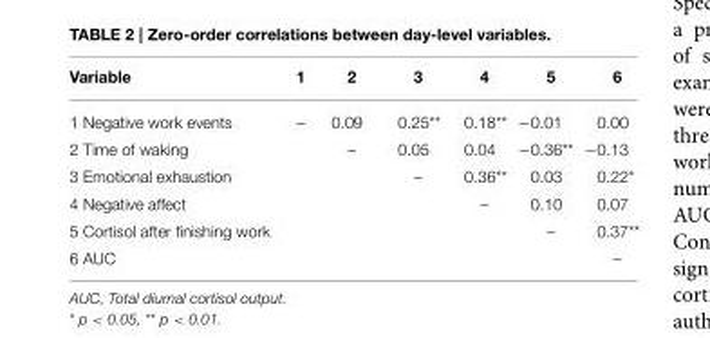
<table><thead><tr><td>Variable</td><td>1</td><td>2</td><td>3</td><td>4</td><td>5</td><td>6</td></tr></thead><tbody><tr><td>1 Negative work events</td><td>–</td><td>0.09</td><td>0.25**</td><td>0.18**</td><td>−0.01</td><td>0.00</td></tr><tr><td>2 Time of waking</td><td></td><td>–</td><td>0.05</td><td>0.04</td><td>−0.36**</td><td>−0.13</td></tr><tr><td>3 Emotional exhaustion</td><td></td><td></td><td>–</td><td>0.36**</td><td>0.03</td><td>0.22*</td></tr><tr><td>4 Negative affect</td><td></td><td></td><td></td><td>–</td><td>0.10</td><td>0.07</td></tr><tr><td>5 Cortisol after finishing work</td><td></td><td></td><td></td><td></td><td>–</td><td>0.37**</td></tr><tr><td>6 AUC</td><td></td><td></td><td></td><td></td><td></td><td>–</td></tr></tbody></table>